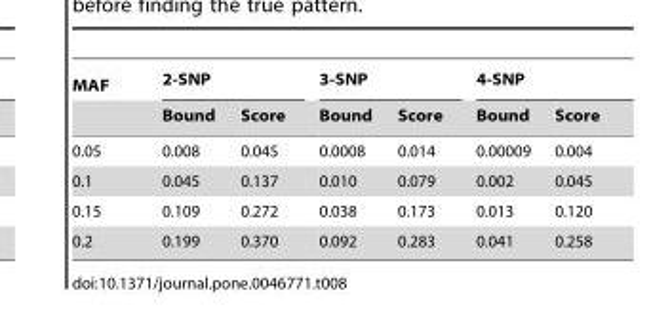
<table><thead><tr><td rowspan="2">MAF</td><td colspan="2">2-SNP</td><td colspan="2">3-SNP</td><td colspan="2">4-SNP</td></tr><tr><td>Bound</td><td>Score</td><td>Bound</td><td>Score</td><td>Bound</td><td>Score</td></tr></thead><tbody><tr><td>0.05</td><td>0.008</td><td>0.045</td><td>0.0008</td><td>0.014</td><td>0.00009</td><td>0.004</td></tr><tr><td>0.1</td><td>0.045</td><td>0.137</td><td>0.010</td><td>0.079</td><td>0.002</td><td>0.045</td></tr><tr><td>0.15</td><td>0.109</td><td>0.272</td><td>0.038</td><td>0.173</td><td>0.013</td><td>0.120</td></tr><tr><td>0.2</td><td>0.199</td><td>0.370</td><td>0.092</td><td>0.283</td><td>0.041</td><td>0.258</td></tr></tbody></table>